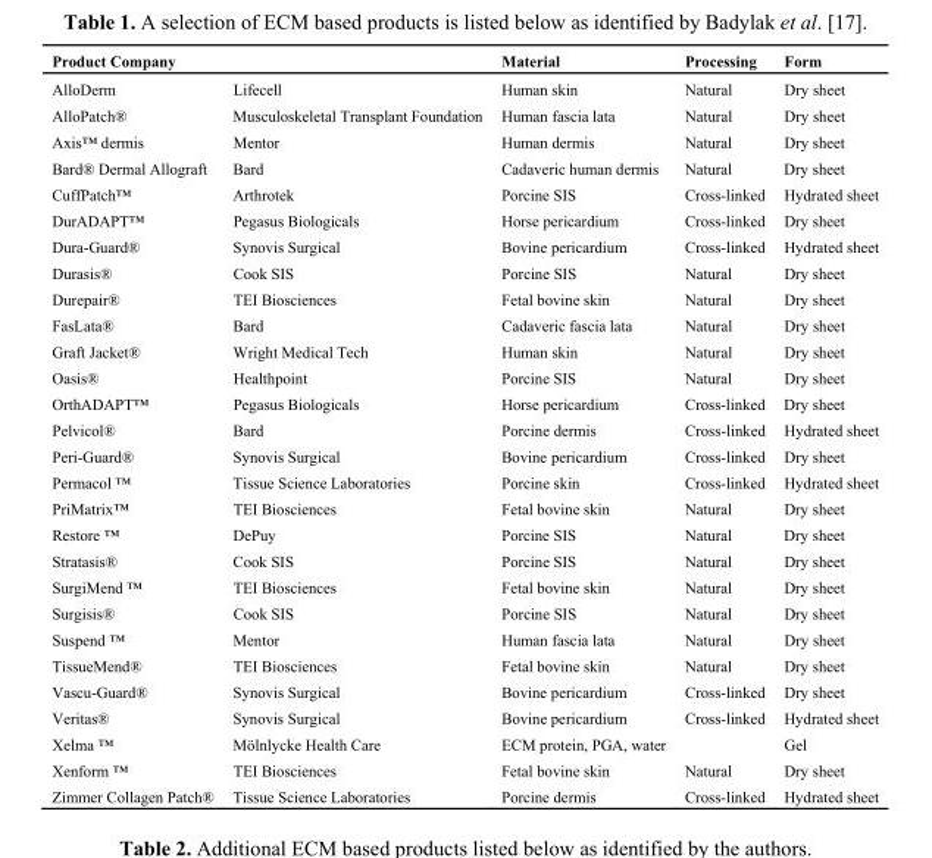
<table><thead><tr><td>Product Company</td><td></td><td>Material</td><td>Processing</td><td>Form</td></tr></thead><tbody><tr><td>AlloDerm</td><td>Lifecell</td><td>Human skin</td><td>Natural</td><td>Dry sheet</td></tr><tr><td>AlloPatch®</td><td>Musculoskeletal Transplant Foundation</td><td>Human fascia lata</td><td>Natural</td><td>Dry sheet</td></tr><tr><td>Axis™ dermis</td><td>Mentor</td><td>Human dermis</td><td>Natural</td><td>Dry sheet</td></tr><tr><td>Bard® Dermal Allograft</td><td>Bard</td><td>Cadaveric human dermis</td><td>Natural</td><td>Dry sheet</td></tr><tr><td>CuffPatch™</td><td>Arthrotek</td><td>Porcine SIS</td><td>Cross-linked</td><td>Hydrated sheet</td></tr><tr><td>DurADAPT™</td><td>Pegasus Biologicals</td><td>Horse pericardium</td><td>Cross-linked</td><td>Dry sheet</td></tr><tr><td>Dura-Guard®</td><td>Synovis Surgical</td><td>Bovine pericardium</td><td>Cross-linked</td><td>Hydrated sheet</td></tr><tr><td>Durasis®</td><td>Cook SIS</td><td>Porcine SIS</td><td>Natural</td><td>Dry sheet</td></tr><tr><td>Durepair®</td><td>TEI Biosciences</td><td>Fetal bovine skin</td><td>Natural</td><td>Dry sheet</td></tr><tr><td>FasLata®</td><td>Bard</td><td>Cadaveric fascia lata</td><td>Natural</td><td>Dry sheet</td></tr><tr><td>Graft Jacket®</td><td>Wright Medical Tech</td><td>Human skin</td><td>Natural</td><td>Dry sheet</td></tr><tr><td>Oasis®</td><td>Healthpoint</td><td>Porcine SIS</td><td>Natural</td><td>Dry sheet</td></tr><tr><td>OrthADAPT™</td><td>Pegasus Biologicals</td><td>Horse pericardium</td><td>Cross-linked</td><td>Dry sheet</td></tr><tr><td>Pelvicol®</td><td>Bard</td><td>Porcine dermis</td><td>Cross-linked</td><td>Hydrated sheet</td></tr><tr><td>Peri-Guard®</td><td>Synovis Surgical</td><td>Bovine pericardium</td><td>Cross-linked</td><td>Dry sheet</td></tr><tr><td>Permacol ™</td><td>Tissue Science Laboratories</td><td>Porcine skin</td><td>Cross-linked</td><td>Hydrated sheet</td></tr><tr><td>PriMatrix™</td><td>TEI Biosciences</td><td>Fetal bovine skin</td><td>Natural</td><td>Dry sheet</td></tr><tr><td>Restore ™</td><td>DePuy</td><td>Porcine SIS</td><td>Natural</td><td>Dry sheet</td></tr><tr><td>Stratasis®</td><td>Cook SIS</td><td>Porcine SIS</td><td>Natural</td><td>Dry sheet</td></tr><tr><td>SurgiMend ™</td><td>TEI Biosciences</td><td>Fetal bovine skin</td><td>Natural</td><td>Dry sheet</td></tr><tr><td>Surgisis®</td><td>Cook SIS</td><td>Porcine SIS</td><td>Natural</td><td>Dry sheet</td></tr><tr><td>Suspend ™</td><td>Mentor</td><td>Human fascia lata</td><td>Natural</td><td>Dry sheet</td></tr><tr><td>TissueMend®</td><td>TEI Biosciences</td><td>Fetal bovine skin</td><td>Natural</td><td>Dry sheet</td></tr><tr><td>Vascu-Guard®</td><td>Synovis Surgical</td><td>Bovine pericardium</td><td>Cross-linked</td><td>Dry sheet</td></tr><tr><td>Veritas®</td><td>Synovis Surgical</td><td>Bovine pericardium</td><td>Cross-linked</td><td>Hydrated sheet</td></tr><tr><td>Xelma ™</td><td>Mölnlycke Health Care</td><td>ECM protein, PGA, water</td><td></td><td>Gel</td></tr><tr><td>Xenform ™</td><td>TEI Biosciences</td><td>Fetal bovine skin</td><td>Natural</td><td>Dry sheet</td></tr><tr><td>Zimmer Collagen Patch®</td><td>Tissue Science Laboratories</td><td>Porcine dermis</td><td>Cross-linked</td><td>Hydrated sheet</td></tr></tbody></table>